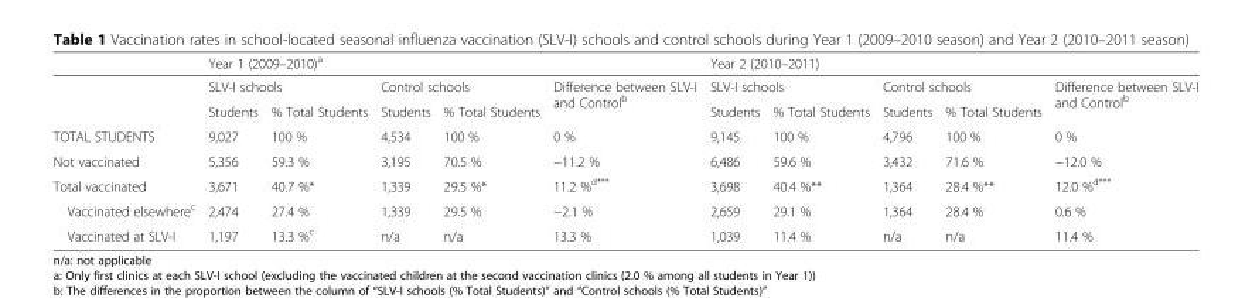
<table><thead><tr><td rowspan="3"></td><td colspan="5">Year 1 (2009–2010)<sup>a</sup></td><td colspan="5">Year 2 (2010–2011)</td></tr><tr><td colspan="2">SLV-I schools</td><td colspan="2">Control schools</td><td rowspan="2">Difference between SLV-I and Control<sup>b</sup></td><td colspan="2">SLV-I schools</td><td colspan="2">Control schools</td><td rowspan="2">Difference between SLV-I and Control<sup>b</sup></td></tr><tr><td>Students</td><td>% Total Students</td><td>Students</td><td>% Total Students</td><td>Students</td><td>% Total Students</td><td>Students</td><td>% Total Students</td></tr></thead><tbody><tr><td>TOTAL STUDENTS</td><td>9,027</td><td>100 %</td><td>4,534</td><td>100 %</td><td>0 %</td><td>9,145</td><td>100 %</td><td>4,796</td><td>100 %</td><td>0 %</td></tr><tr><td>Not vaccinated</td><td>5,356</td><td>59.3 %</td><td>3,195</td><td>70.5 %</td><td>−11.2 %</td><td>6,486</td><td>59.6 %</td><td>3,432</td><td>71.6 %</td><td>−12.0 %</td></tr><tr><td>Total vaccinated</td><td>3,671</td><td>40.7 %*</td><td>1,339</td><td>29.5 %*</td><td>11.2 %<sup>d***</sup></td><td>3,698</td><td>40.4 %**</td><td>1,364</td><td>28.4 %**</td><td>12.0 %<sup>d***</sup></td></tr><tr><td>Vaccinated elsewhere<sup>c</sup></td><td>2,474</td><td>27.4 %</td><td>1,339</td><td>29.5 %</td><td>−2.1 %</td><td>2,659</td><td>29.1 %</td><td>1,364</td><td>28.4 %</td><td>0.6 %</td></tr><tr><td>Vaccinated at SLV-I</td><td>1,197</td><td>13.3 %<sup>c</sup></td><td>n/a</td><td>n/a</td><td>13.3 %</td><td>1,039</td><td>11.4 %</td><td>n/a</td><td>n/a</td><td>11.4 %</td></tr></tbody></table>